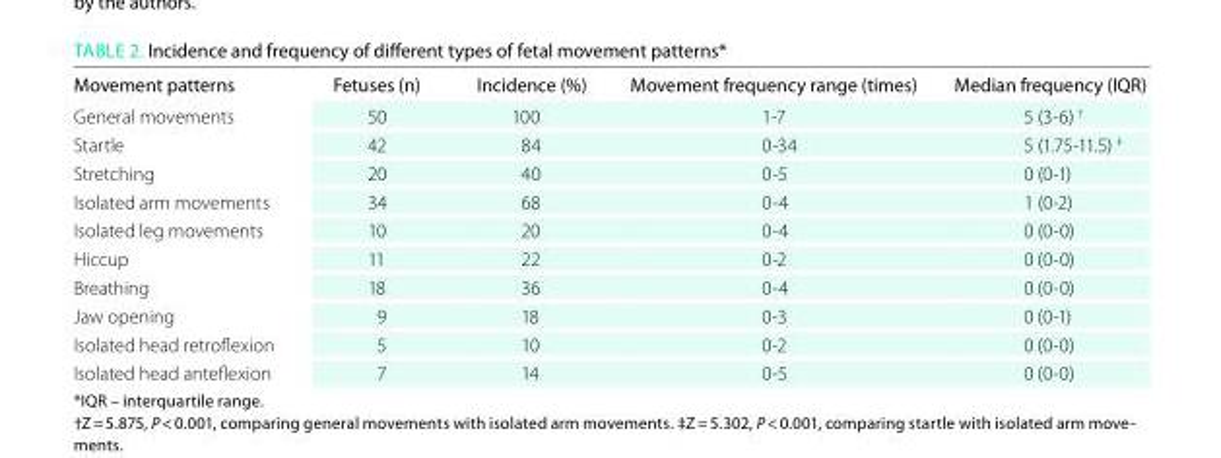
<table><thead><tr><td>movement patterns</td><td>Fetuses (n)</td><td>incidence (%)</td><td>movement frequency range (times)</td><td>median frequency (iQR)</td></tr></thead><tbody><tr><td>General movements</td><td>50</td><td>100</td><td>1-7</td><td>5 (3-6) <sup>†</sup></td></tr><tr><td>Startle</td><td>42</td><td>84</td><td>0-34</td><td>5 (1.75-11.5) <sup>‡</sup></td></tr><tr><td>Stretching</td><td>20</td><td>40</td><td>0-5</td><td>0 (0-1)</td></tr><tr><td>Isolated arm movements</td><td>34</td><td>68</td><td>0-4</td><td>1 (0-2)</td></tr><tr><td>Isolated leg movements</td><td>10</td><td>20</td><td>0-4</td><td>0 (0-0)</td></tr><tr><td>Hiccup</td><td>11</td><td>22</td><td>0-2</td><td>0 (0-0)</td></tr><tr><td>Breathing</td><td>18</td><td>36</td><td>0-4</td><td>0 (0-0)</td></tr><tr><td>Jaw opening</td><td>9</td><td>18</td><td>0-3</td><td>0 (0-1)</td></tr><tr><td>Isolated head retroflexion</td><td>5</td><td>10</td><td>0-2</td><td>0 (0-0)</td></tr><tr><td>Isolated head anteflexion</td><td>7</td><td>14</td><td>0-5</td><td>0 (0-0)</td></tr></tbody></table>